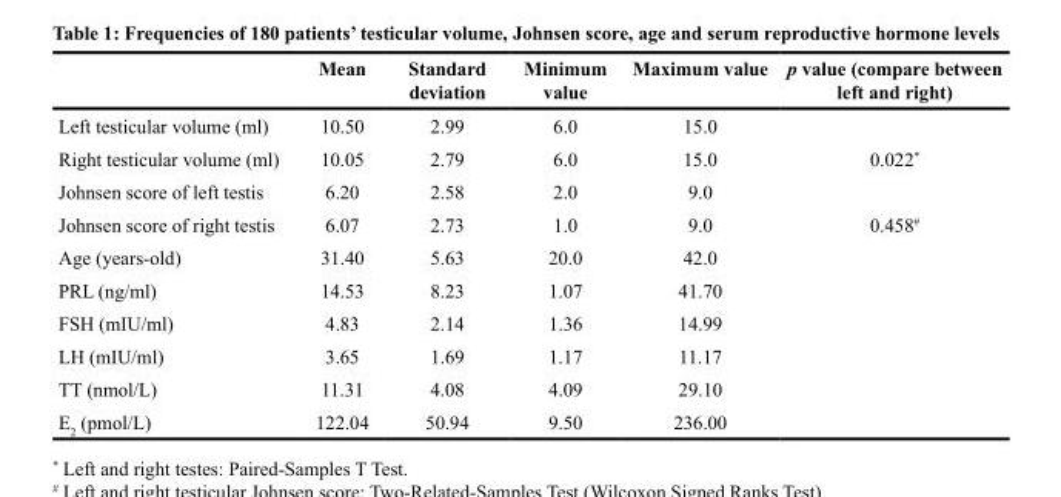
<table><thead><tr><td></td><td>Mean</td><td>Standard deviation</td><td>Minimum value</td><td>Maximum value</td><td>p value (compare between left and right)</td></tr></thead><tbody><tr><td>Left testicular volume (ml)</td><td>10.50</td><td>2.99</td><td>6.0</td><td>15.0</td><td></td></tr><tr><td>Right testicular volume (ml)</td><td>10.05</td><td>2.79</td><td>6.0</td><td>15.0</td><td>0.022*</td></tr><tr><td>Johnsen score of left testis</td><td>6.20</td><td>2.58</td><td>2.0</td><td>9.0</td><td></td></tr><tr><td>Johnsen score of right testis</td><td>6.07</td><td>2.73</td><td>1.0</td><td>9.0</td><td>0.458<sup>#</sup></td></tr><tr><td>Age (years-old)</td><td>31.40</td><td>5.63</td><td>20.0</td><td>42.0</td><td></td></tr><tr><td>PRL (ng/ml)</td><td>14.53</td><td>8.23</td><td>1.07</td><td>41.70</td><td></td></tr><tr><td>FSH (mIU/ml)</td><td>4.83</td><td>2.14</td><td>1.36</td><td>14.99</td><td></td></tr><tr><td>LH (mIU/ml)</td><td>3.65</td><td>1.69</td><td>1.17</td><td>11.17</td><td></td></tr><tr><td>TT (nmol/L)</td><td>11.31</td><td>4.08</td><td>4.09</td><td>29.10</td><td></td></tr><tr><td>E<sub>2</sub> (pmol/L)</td><td>122.04</td><td>50.94</td><td>9.50</td><td>236.00</td><td></td></tr></tbody></table>